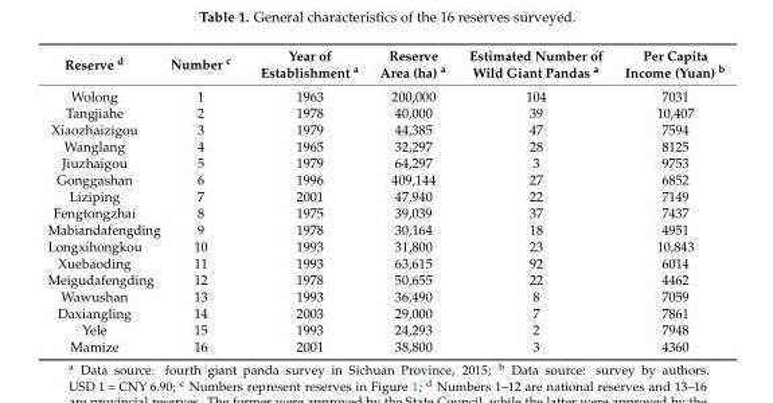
<table><thead><tr><td>Reserve <sup>d</sup></td><td>Number <sup>c</sup></td><td>Year of Establishment <sup>a</sup></td><td>Reserve Area (ha) <sup>a</sup></td><td>Estimated Number of Wild Giant Pandas <sup>a</sup></td><td>Per Capita Income (Yuan) <sup>b</sup></td></tr></thead><tbody><tr><td>Wolong</td><td>1</td><td>1963</td><td>200,000</td><td>104</td><td>7031</td></tr><tr><td>Tangjiahe</td><td>2</td><td>1978</td><td>40,000</td><td>39</td><td>10,407</td></tr><tr><td>Xiaozhaizigou</td><td>3</td><td>1979</td><td>44,385</td><td>47</td><td>7594</td></tr><tr><td>Wanglang</td><td>4</td><td>1965</td><td>32,297</td><td>28</td><td>8125</td></tr><tr><td>Jiuzhaigou</td><td>5</td><td>1979</td><td>64,297</td><td>3</td><td>9753</td></tr><tr><td>Gonggashan</td><td>6</td><td>1996</td><td>409,144</td><td>27</td><td>6852</td></tr><tr><td>Liziping</td><td>7</td><td>2001</td><td>47,940</td><td>22</td><td>7149</td></tr><tr><td>Fengtongzhai</td><td>8</td><td>1975</td><td>39,039</td><td>37</td><td>7437</td></tr><tr><td>Mabiandafengding</td><td>9</td><td>1978</td><td>30,164</td><td>18</td><td>4951</td></tr><tr><td>Longxihongkou</td><td>10</td><td>1993</td><td>31,800</td><td>23</td><td>10,843</td></tr><tr><td>Xuebaoding</td><td>11</td><td>1993</td><td>63,615</td><td>92</td><td>6014</td></tr><tr><td>Meigudafengding</td><td>12</td><td>1978</td><td>50,655</td><td>22</td><td>4462</td></tr><tr><td>Wawushan</td><td>13</td><td>1993</td><td>36,490</td><td>8</td><td>7059</td></tr><tr><td>Daxiangling</td><td>14</td><td>2003</td><td>29,000</td><td>7</td><td>7861</td></tr><tr><td>Yele</td><td>15</td><td>1993</td><td>24,293</td><td>2</td><td>7948</td></tr><tr><td>Mamize</td><td>16</td><td>2001</td><td>38,800</td><td>3</td><td>4360</td></tr></tbody></table>